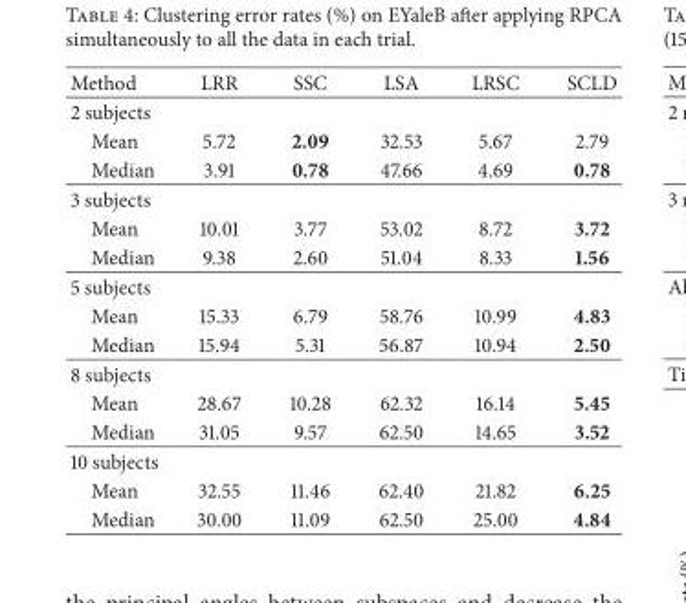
<table><thead><tr><td>Method</td><td>LRR</td><td>SSC</td><td>LSA</td><td>LRSC</td><td>SCLD</td></tr></thead><tbody><tr><td colspan="6">2 subjects</td></tr><tr><td>Mean</td><td>5.72</td><td>2.09</td><td>32.53</td><td>5.67</td><td>2.79</td></tr><tr><td>Median</td><td>3.91</td><td>0.78</td><td>47.66</td><td>4.69</td><td>0.78</td></tr><tr><td colspan="6">3 subjects</td></tr><tr><td>Mean</td><td>10.01</td><td>3.77</td><td>53.02</td><td>8.72</td><td>3.72</td></tr><tr><td>Median</td><td>9.38</td><td>2.60</td><td>51.04</td><td>8.33</td><td>1.56</td></tr><tr><td colspan="6">5 subjects</td></tr><tr><td>Mean</td><td>15.33</td><td>6.79</td><td>58.76</td><td>10.99</td><td>4.83</td></tr><tr><td>Median</td><td>15.94</td><td>5.31</td><td>56.87</td><td>10.94</td><td>2.50</td></tr><tr><td colspan="6">8 subjects</td></tr><tr><td>Mean</td><td>28.67</td><td>10.28</td><td>62.32</td><td>16.14</td><td>5.45</td></tr><tr><td>Median</td><td>31.05</td><td>9.57</td><td>62.50</td><td>14.65</td><td>3.52</td></tr><tr><td colspan="6">10 subjects</td></tr><tr><td>Mean</td><td>32.55</td><td>11.46</td><td>62.40</td><td>21.82</td><td>6.25</td></tr><tr><td>Median</td><td>30.00</td><td>11.09</td><td>62.50</td><td>25.00</td><td>4.84</td></tr></tbody></table>